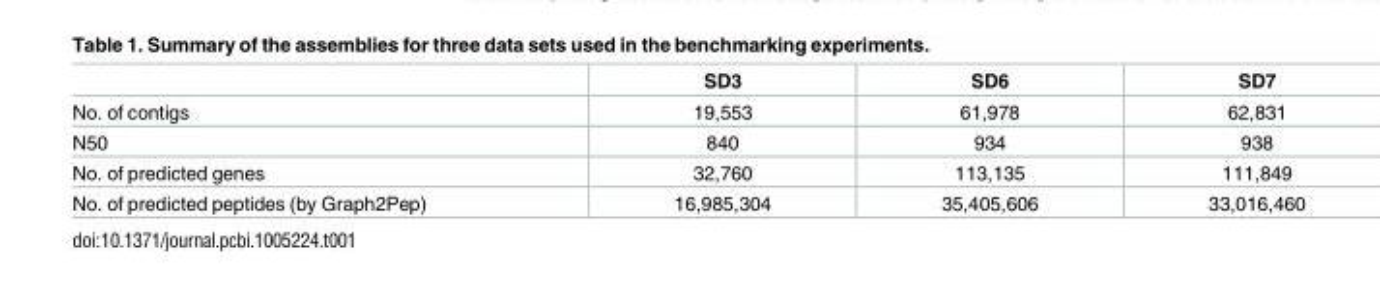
<table><thead><tr><td></td><td>SD3</td><td>SD6</td><td>SD7</td></tr></thead><tbody><tr><td>No. of contigs</td><td>19,553</td><td>61,978</td><td>62,831</td></tr><tr><td>N50</td><td>840</td><td>934</td><td>938</td></tr><tr><td>No. of predicted genes</td><td>32,760</td><td>113,135</td><td>111,849</td></tr><tr><td>No. of predicted peptides (by Graph2Pep)</td><td>16,985,304</td><td>35,405,606</td><td>33,016,460</td></tr></tbody></table>